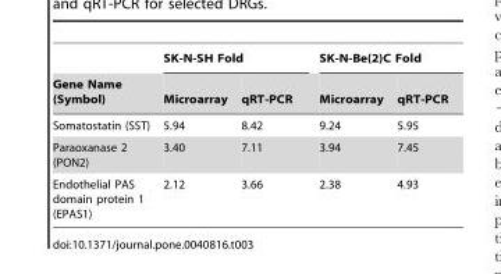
<table><thead><tr><td rowspan="2">Gene Name (Symbol)</td><td colspan="2">SK-N-SH Fold</td><td colspan="2">SK-N-Be(2)C Fold</td></tr><tr><td>Microarray</td><td>qRT-PCR</td><td>Microarray</td><td>qRT-PCR</td></tr></thead><tbody><tr><td>Somatostatin (SST)</td><td>5.94</td><td>8.42</td><td>9.24</td><td>5.95</td></tr><tr><td>Paraoxanase 2 (PON2)</td><td>3.40</td><td>7.11</td><td>3.94</td><td>7.45</td></tr><tr><td>Endothelial PAS domain protein 1 (EPAS1)</td><td>2.12</td><td>3.66</td><td>2.38</td><td>4.93</td></tr></tbody></table>